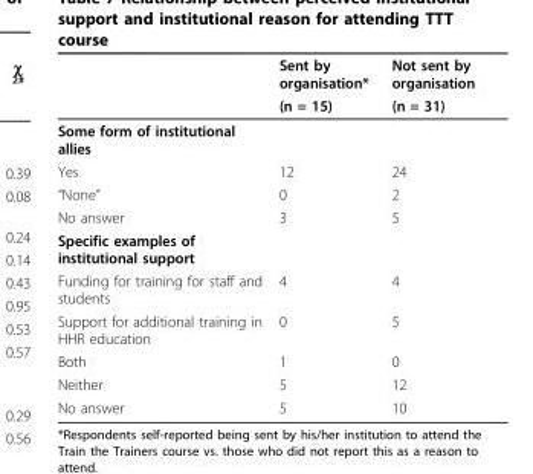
<table><thead><tr><td rowspan="2"></td><td rowspan="2">Sent by organisation* (n = 15)</td><td rowspan="2">Not sent by organisation (n = 31)</td></tr><tr></tr></thead><tbody><tr><td colspan="3">Some form of institutional allies</td></tr><tr><td>Yes</td><td>12</td><td>24</td></tr><tr><td>“None”</td><td>0</td><td>2</td></tr><tr><td>No answer</td><td>3</td><td>5</td></tr><tr><td colspan="3">Specific examples of institutional support</td></tr><tr><td>Funding for training for staff and students</td><td>4</td><td>4</td></tr><tr><td>Support for additional training in HHR education</td><td>0</td><td>5</td></tr><tr><td>Both</td><td>1</td><td>0</td></tr><tr><td>Neither</td><td>5</td><td>12</td></tr><tr><td>No answer</td><td>5</td><td>10</td></tr></tbody></table>